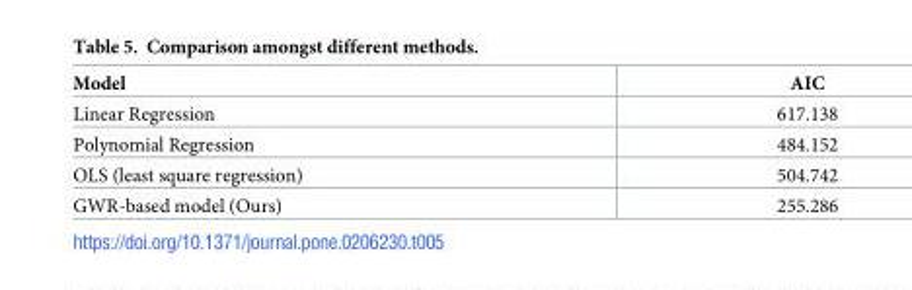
<table><thead><tr><td>Model</td><td>AIC</td></tr></thead><tbody><tr><td>Linear Regression</td><td>617.138</td></tr><tr><td>Polynomial Regression</td><td>484.152</td></tr><tr><td>OLS (least square regression)</td><td>504.742</td></tr><tr><td>GWR-based model (Ours)</td><td>255.286</td></tr></tbody></table>